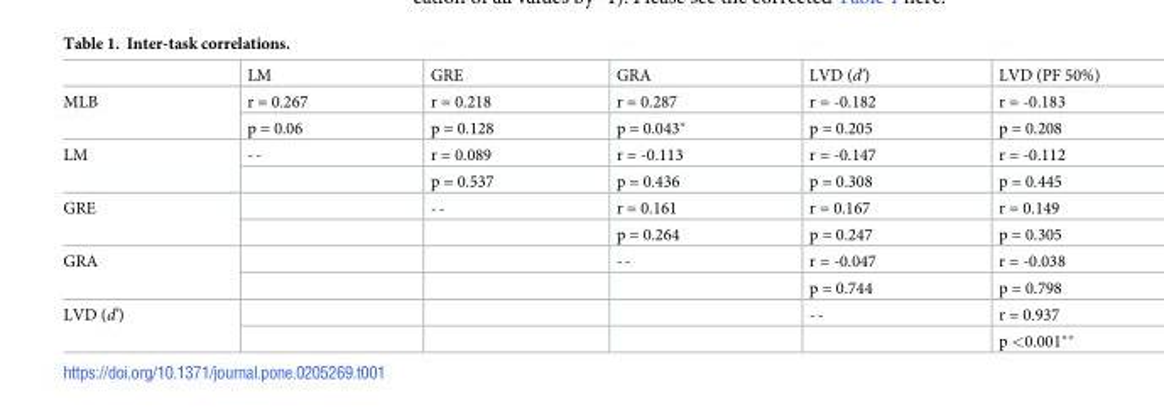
<table><thead><tr><td></td><td>LM</td><td>GRE</td><td>GRA</td><td>LVD (d’)</td><td>LVD (PF 50%)</td></tr></thead><tbody><tr><td rowspan="2">MLB</td><td>r = 0.267</td><td>r = 0.218</td><td>r = 0.287</td><td>r = -0.182</td><td>r = -0.183</td></tr><tr><td>p = 0.06</td><td>p = 0.128</td><td>p = 0.043*</td><td>p = 0.205</td><td>p = 0.208</td></tr><tr><td rowspan="2">LM</td><td>--</td><td>r = 0.089</td><td>r = -0.113</td><td>r = -0.147</td><td>r = -0.112</td></tr><tr><td></td><td>p = 0.537</td><td>p = 0.436</td><td>p = 0.308</td><td>p = 0.445</td></tr><tr><td rowspan="2">GRE</td><td></td><td>--</td><td>r = 0.161</td><td>r = 0.167</td><td>r = 0.149</td></tr><tr><td></td><td></td><td>p = 0.264</td><td>p = 0.247</td><td>p = 0.305</td></tr><tr><td rowspan="2">GRA</td><td></td><td></td><td>--</td><td>r = -0.047</td><td>r = -0.038</td></tr><tr><td></td><td></td><td></td><td>p = 0.744</td><td>p = 0.798</td></tr><tr><td rowspan="2">LVD (d’)</td><td></td><td></td><td></td><td>--</td><td>r = 0.937</td></tr><tr><td></td><td></td><td></td><td></td><td>p &lt;0.001**</td></tr></tbody></table>